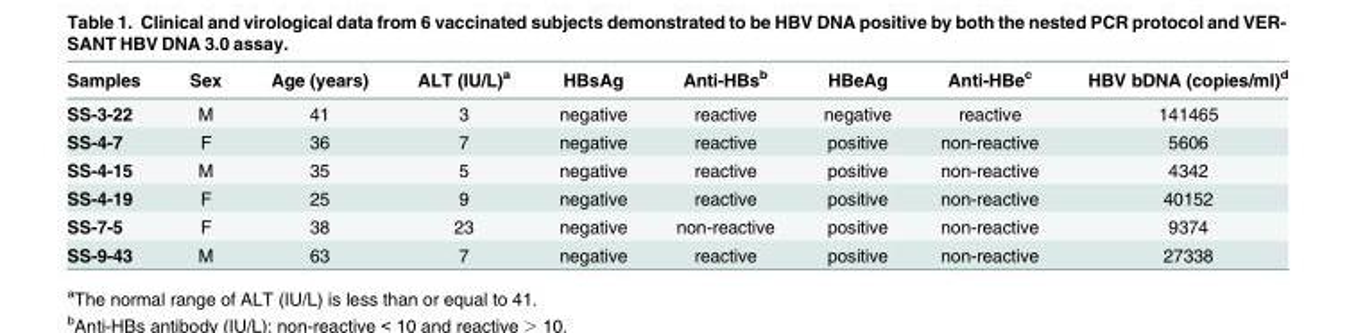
<table><thead><tr><td>Samples</td><td>Sex</td><td>Age (years)</td><td>ALT (IU/L)<sup>a</sup></td><td>HBsAg</td><td>Anti-HBs<sup>b</sup></td><td>HBeAg</td><td>Anti-HBe<sup>c</sup></td><td>HBV bDNA (copies/ml)<sup>d</sup></td></tr></thead><tbody><tr><td>SS-3-22</td><td>M</td><td>41</td><td>3</td><td>negative</td><td>reactive</td><td>negative</td><td>reactive</td><td>141465</td></tr><tr><td>SS-4-7</td><td>F</td><td>36</td><td>7</td><td>negative</td><td>reactive</td><td>positive</td><td>non-reactive</td><td>5606</td></tr><tr><td>SS-4-15</td><td>M</td><td>35</td><td>5</td><td>negative</td><td>reactive</td><td>positive</td><td>non-reactive</td><td>4342</td></tr><tr><td>SS-4-19</td><td>F</td><td>25</td><td>9</td><td>negative</td><td>reactive</td><td>positive</td><td>non-reactive</td><td>40152</td></tr><tr><td>SS-7-5</td><td>F</td><td>38</td><td>23</td><td>negative</td><td>non-reactive</td><td>positive</td><td>non-reactive</td><td>9374</td></tr><tr><td>SS-9-43</td><td>M</td><td>63</td><td>7</td><td>negative</td><td>reactive</td><td>positive</td><td>non-reactive</td><td>27338</td></tr></tbody></table>